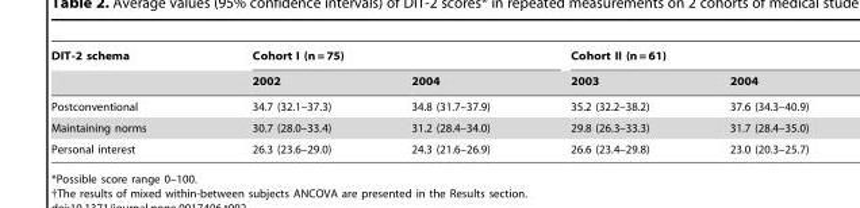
<table><thead><tr><td rowspan="2">DIT-2 schema</td><td colspan="2">Cohort I (n = 75)</td><td colspan="2">Cohort II (n = 61)</td></tr><tr><td>2002</td><td>2004</td><td>2003</td><td>2004</td></tr></thead><tbody><tr><td>Postconventional</td><td>34.7 (32.1–37.3)</td><td>34.8 (31.7–37.9)</td><td>35.2 (32.2–38.2)</td><td>37.6 (34.3–40.9)</td></tr><tr><td>Maintaining norms</td><td>30.7 (28.0–33.4)</td><td>31.2 (28.4–34.0)</td><td>29.8 (26.3–33.3)</td><td>31.7 (28.4–35.0)</td></tr><tr><td>Personal interest</td><td>26.3 (23.6–29.0)</td><td>24.3 (21.6–26.9)</td><td>26.6 (23.4–29.8)</td><td>23.0 (20.3–25.7)</td></tr></tbody></table>